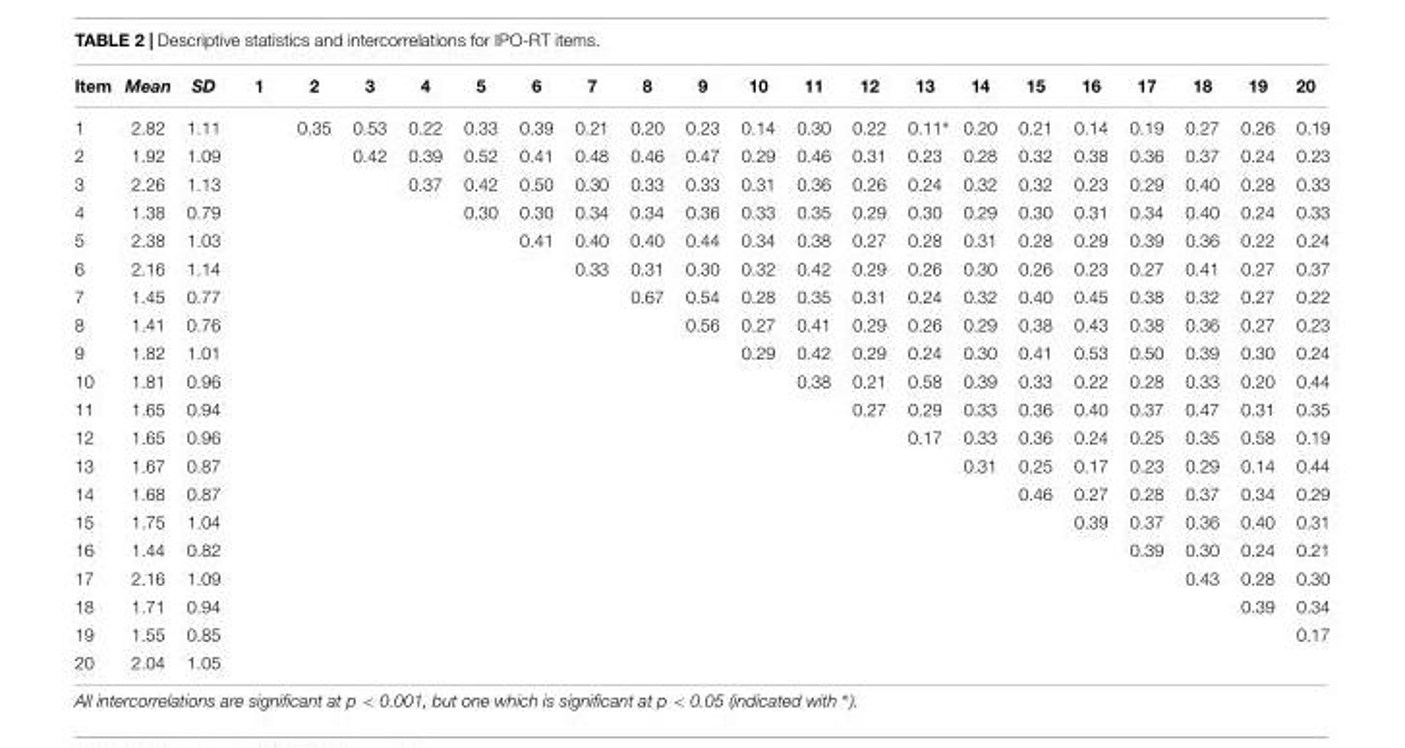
<table><thead><tr><td>Item</td><td>Mean</td><td>SD</td><td>1</td><td>2</td><td>3</td><td>4</td><td>5</td><td>6</td><td>7</td><td>8</td><td>9</td><td>10</td><td>11</td><td>12</td><td>13</td><td>14</td><td>15</td><td>16</td><td>17</td><td>18</td><td>19</td><td>20</td></tr></thead><tbody><tr><td>1</td><td>2.82</td><td>1.11</td><td></td><td>0.35</td><td>0.53</td><td>0.22</td><td>0.33</td><td>0.39</td><td>0.21</td><td>0.20</td><td>0.23</td><td>0.14</td><td>0.30</td><td>0.22</td><td>0.11∗</td><td>0.20</td><td>0.21</td><td>0.14</td><td>0.19</td><td>0.27</td><td>0.26</td><td>0.19</td></tr><tr><td>2</td><td>1.92</td><td>1.09</td><td></td><td></td><td>0.42</td><td>0.39</td><td>0.52</td><td>0.41</td><td>0.48</td><td>0.46</td><td>0.47</td><td>0.29</td><td>0.46</td><td>0.31</td><td>0.23</td><td>0.28</td><td>0.32</td><td>0.38</td><td>0.36</td><td>0.37</td><td>0.24</td><td>0.23</td></tr><tr><td>3</td><td>2.26</td><td>1.13</td><td></td><td></td><td></td><td>0.37</td><td>0.42</td><td>0.50</td><td>0.30</td><td>0.33</td><td>0.33</td><td>0.31</td><td>0.36</td><td>0.26</td><td>0.24</td><td>0.32</td><td>0.32</td><td>0.23</td><td>0.29</td><td>0.40</td><td>0.28</td><td>0.33</td></tr><tr><td>4</td><td>1.38</td><td>0.79</td><td></td><td></td><td></td><td></td><td>0.30</td><td>0.30</td><td>0.34</td><td>0.34</td><td>0.36</td><td>0.33</td><td>0.35</td><td>0.29</td><td>0.30</td><td>0.29</td><td>0.30</td><td>0.31</td><td>0.34</td><td>0.40</td><td>0.24</td><td>0.33</td></tr><tr><td>5</td><td>2.38</td><td>1.03</td><td></td><td></td><td></td><td></td><td></td><td>0.41</td><td>0.40</td><td>0.40</td><td>0.44</td><td>0.34</td><td>0.38</td><td>0.27</td><td>0.28</td><td>0.31</td><td>0.28</td><td>0.29</td><td>0.39</td><td>0.36</td><td>0.22</td><td>0.24</td></tr><tr><td>6</td><td>2.16</td><td>1.14</td><td></td><td></td><td></td><td></td><td></td><td></td><td>0.33</td><td>0.31</td><td>0.30</td><td>0.32</td><td>0.42</td><td>0.29</td><td>0.26</td><td>0.30</td><td>0.26</td><td>0.23</td><td>0.27</td><td>0.41</td><td>0.27</td><td>0.37</td></tr><tr><td>7</td><td>1.45</td><td>0.77</td><td></td><td></td><td></td><td></td><td></td><td></td><td></td><td>0.67</td><td>0.54</td><td>0.28</td><td>0.35</td><td>0.31</td><td>0.24</td><td>0.32</td><td>0.40</td><td>0.45</td><td>0.38</td><td>0.32</td><td>0.27</td><td>0.22</td></tr><tr><td>8</td><td>1.41</td><td>0.76</td><td></td><td></td><td></td><td></td><td></td><td></td><td></td><td></td><td>0.56</td><td>0.27</td><td>0.41</td><td>0.29</td><td>0.26</td><td>0.29</td><td>0.38</td><td>0.43</td><td>0.38</td><td>0.36</td><td>0.27</td><td>0.23</td></tr><tr><td>9</td><td>1.82</td><td>1.01</td><td></td><td></td><td></td><td></td><td></td><td></td><td></td><td></td><td></td><td>0.29</td><td>0.42</td><td>0.29</td><td>0.24</td><td>0.30</td><td>0.41</td><td>0.53</td><td>0.50</td><td>0.39</td><td>0.30</td><td>0.24</td></tr><tr><td>10</td><td>1.81</td><td>0.96</td><td></td><td></td><td></td><td></td><td></td><td></td><td></td><td></td><td></td><td></td><td>0.38</td><td>0.21</td><td>0.58</td><td>0.39</td><td>0.33</td><td>0.22</td><td>0.28</td><td>0.33</td><td>0.20</td><td>0.44</td></tr><tr><td>11</td><td>1.65</td><td>0.94</td><td></td><td></td><td></td><td></td><td></td><td></td><td></td><td></td><td></td><td></td><td></td><td>0.27</td><td>0.29</td><td>0.33</td><td>0.36</td><td>0.40</td><td>0.37</td><td>0.47</td><td>0.31</td><td>0.35</td></tr><tr><td>12</td><td>1.65</td><td>0.96</td><td></td><td></td><td></td><td></td><td></td><td></td><td></td><td></td><td></td><td></td><td></td><td></td><td>0.17</td><td>0.33</td><td>0.36</td><td>0.24</td><td>0.25</td><td>0.35</td><td>0.58</td><td>0.19</td></tr><tr><td>13</td><td>1.67</td><td>0.87</td><td></td><td></td><td></td><td></td><td></td><td></td><td></td><td></td><td></td><td></td><td></td><td></td><td></td><td>0.31</td><td>0.25</td><td>0.17</td><td>0.23</td><td>0.29</td><td>0.14</td><td>0.44</td></tr><tr><td>14</td><td>1.68</td><td>0.87</td><td></td><td></td><td></td><td></td><td></td><td></td><td></td><td></td><td></td><td></td><td></td><td></td><td></td><td></td><td>0.46</td><td>0.27</td><td>0.28</td><td>0.37</td><td>0.34</td><td>0.29</td></tr><tr><td>15</td><td>1.75</td><td>1.04</td><td></td><td></td><td></td><td></td><td></td><td></td><td></td><td></td><td></td><td></td><td></td><td></td><td></td><td></td><td></td><td>0.39</td><td>0.37</td><td>0.36</td><td>0.40</td><td>0.31</td></tr><tr><td>16</td><td>1.44</td><td>0.82</td><td></td><td></td><td></td><td></td><td></td><td></td><td></td><td></td><td></td><td></td><td></td><td></td><td></td><td></td><td></td><td></td><td>0.39</td><td>0.30</td><td>0.24</td><td>0.21</td></tr><tr><td>17</td><td>2.16</td><td>1.09</td><td></td><td></td><td></td><td></td><td></td><td></td><td></td><td></td><td></td><td></td><td></td><td></td><td></td><td></td><td></td><td></td><td></td><td>0.43</td><td>0.28</td><td>0.30</td></tr><tr><td>18</td><td>1.71</td><td>0.94</td><td></td><td></td><td></td><td></td><td></td><td></td><td></td><td></td><td></td><td></td><td></td><td></td><td></td><td></td><td></td><td></td><td></td><td></td><td>0.39</td><td>0.34</td></tr><tr><td>19</td><td>1.55</td><td>0.85</td><td></td><td></td><td></td><td></td><td></td><td></td><td></td><td></td><td></td><td></td><td></td><td></td><td></td><td></td><td></td><td></td><td></td><td></td><td></td><td>0.17</td></tr><tr><td>20</td><td>2.04</td><td>1.05</td><td></td><td></td><td></td><td></td><td></td><td></td><td></td><td></td><td></td><td></td><td></td><td></td><td></td><td></td><td></td><td></td><td></td><td></td><td></td><td></td></tr></tbody></table>